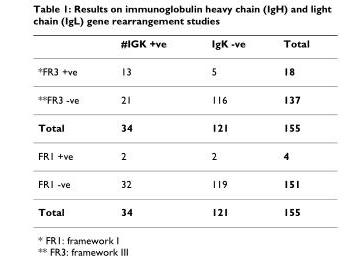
<table><thead><tr><td></td><td>#IGK +ve</td><td>IgK -ve</td><td>Total</td></tr></thead><tbody><tr><td>*FR3 +ve</td><td>13</td><td>5</td><td>18</td></tr><tr><td>**FR3 -ve</td><td>21</td><td>116</td><td>137</td></tr><tr><td>Total</td><td>34</td><td>121</td><td>155</td></tr><tr><td>FR1 +ve</td><td>2</td><td>2</td><td>4</td></tr><tr><td>FR1 -ve</td><td>32</td><td>119</td><td>151</td></tr><tr><td>Total</td><td>34</td><td>121</td><td>155</td></tr></tbody></table>